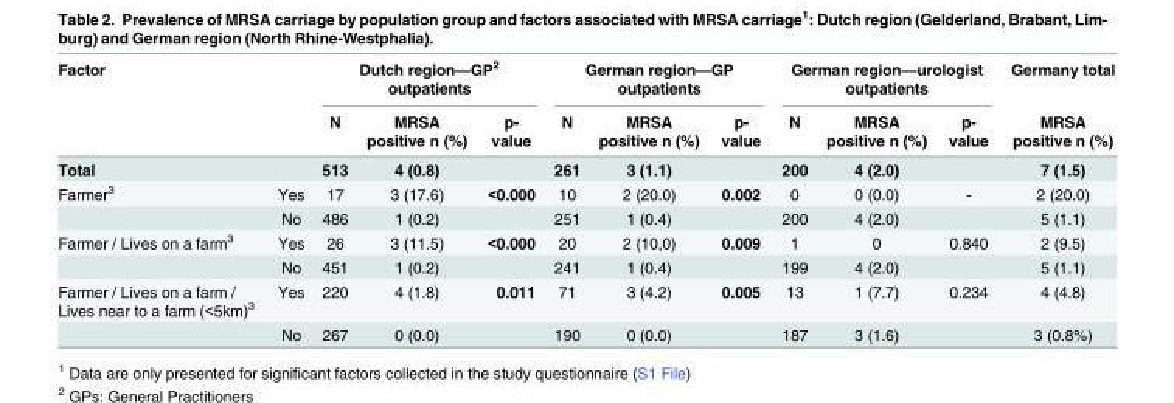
<table><thead><tr><td colspan="2">Factor</td><td colspan="3">Dutch region—GP<sup>2</sup> outpatients</td><td colspan="3">German region—GP outpatients</td><td colspan="3">German region—urologist outpatients</td><td rowspan="2">Germany total MRSA positive n (%)</td></tr><tr><td></td><td></td><td>N</td><td>MRSA positive n (%)</td><td>p- value</td><td>N</td><td>MRSA positive n (%)</td><td>p- value</td><td>N</td><td>MRSA positive n (%)</td><td>p- value</td></tr></thead><tbody><tr><td>Total</td><td></td><td>513</td><td>4 (0.8)</td><td></td><td>261</td><td>3 (1.1)</td><td></td><td>200</td><td>4 (2.0)</td><td></td><td>7 (1.5)</td></tr><tr><td rowspan="2">Farmer<sup>3</sup></td><td>Yes</td><td>17</td><td>3 (17.6)</td><td>&lt;0.000</td><td>10</td><td>2 (20.0)</td><td>0.002</td><td>0</td><td>0 (0.0)</td><td>-</td><td>2 (20.0)</td></tr><tr><td>No</td><td>486</td><td>1 (0.2)</td><td></td><td>251</td><td>1 (0.4)</td><td></td><td>200</td><td>4 (2.0)</td><td></td><td>5 (1.1)</td></tr><tr><td rowspan="2">Farmer / Lives on a farm<sup>3</sup></td><td>Yes</td><td>26</td><td>3 (11.5)</td><td>&lt;0.000</td><td>20</td><td>2 (10,0)</td><td>0.009</td><td>1</td><td>0</td><td>0.840</td><td>2 (9.5)</td></tr><tr><td>No</td><td>451</td><td>1 (0.2)</td><td></td><td>241</td><td>1 (0.4)</td><td></td><td>199</td><td>4 (2.0)</td><td></td><td>5 (1.1)</td></tr><tr><td rowspan="2">Farmer / Lives on a farm / Lives near to a farm (&lt;5km)<sup>3</sup></td><td>Yes</td><td>220</td><td>4 (1.8)</td><td>0.011</td><td>71</td><td>3 (4.2)</td><td>0.005</td><td>13</td><td>1 (7.7)</td><td>0.234</td><td>4 (4.8)</td></tr><tr><td>No</td><td>267</td><td>0 (0.0)</td><td></td><td>190</td><td>0 (0.0)</td><td></td><td>187</td><td>3 (1.6)</td><td></td><td>3 (0.8%)</td></tr></tbody></table>